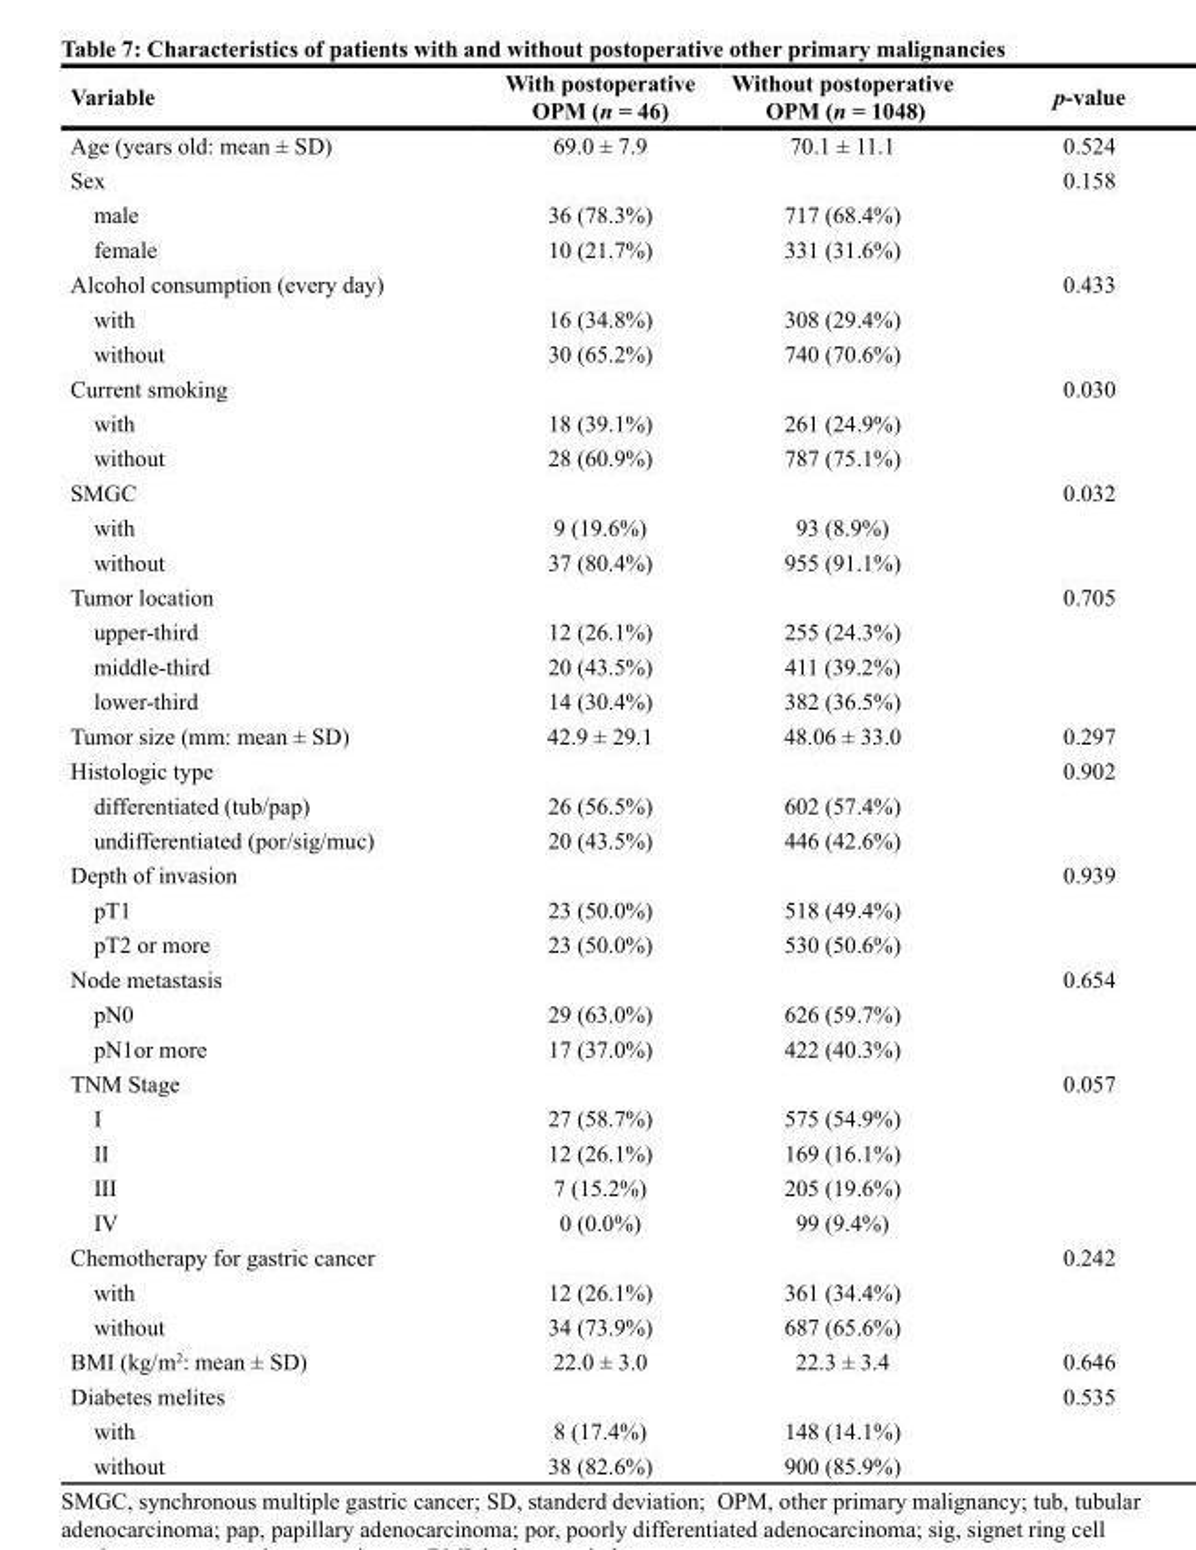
<table><thead><tr><td>Variable</td><td>With postoperative OPM (n = 46)</td><td>Without postoperative OPM (n = 1048)</td><td>p-value</td></tr></thead><tbody><tr><td>Age (years old: mean ± SD)</td><td>69.0 ± 7.9</td><td>70.1 ± 11.1</td><td>0.524</td></tr><tr><td>Sex</td><td></td><td></td><td>0.158</td></tr><tr><td>male</td><td>36 (78.3%)</td><td>717 (68.4%)</td><td></td></tr><tr><td>female</td><td>10 (21.7%)</td><td>331 (31.6%)</td><td></td></tr><tr><td>Alcohol consumption (every day)</td><td></td><td></td><td>0.433</td></tr><tr><td>with</td><td>16 (34.8%)</td><td>308 (29.4%)</td><td></td></tr><tr><td>without</td><td>30 (65.2%)</td><td>740 (70.6%)</td><td></td></tr><tr><td>Current smoking</td><td></td><td></td><td>0.030</td></tr><tr><td>with</td><td>18 (39.1%)</td><td>261 (24.9%)</td><td></td></tr><tr><td>without</td><td>28 (60.9%)</td><td>787 (75.1%)</td><td></td></tr><tr><td>SMGC</td><td></td><td></td><td>0.032</td></tr><tr><td>with</td><td>9 (19.6%)</td><td>93 (8.9%)</td><td></td></tr><tr><td>without</td><td>37 (80.4%)</td><td>955 (91.1%)</td><td></td></tr><tr><td>Tumor location</td><td></td><td></td><td>0.705</td></tr><tr><td>upper-third</td><td>12 (26.1%)</td><td>255 (24.3%)</td><td></td></tr><tr><td>middle-third</td><td>20 (43.5%)</td><td>411 (39.2%)</td><td></td></tr><tr><td>lower-third</td><td>14 (30.4%)</td><td>382 (36.5%)</td><td></td></tr><tr><td>Tumor size (mm: mean ± SD)</td><td>42.9 ± 29.1</td><td>48.06 ± 33.0</td><td>0.297</td></tr><tr><td>Histologic type</td><td></td><td></td><td>0.902</td></tr><tr><td>differentiated (tub/pap)</td><td>26 (56.5%)</td><td>602 (57.4%)</td><td></td></tr><tr><td>undifferentiated (por/sig/muc)</td><td>20 (43.5%)</td><td>446 (42.6%)</td><td></td></tr><tr><td>Depth of invasion</td><td></td><td></td><td>0.939</td></tr><tr><td>pT1</td><td>23 (50.0%)</td><td>518 (49.4%)</td><td></td></tr><tr><td>pT2 or more</td><td>23 (50.0%)</td><td>530 (50.6%)</td><td></td></tr><tr><td>Node metastasis</td><td></td><td></td><td>0.654</td></tr><tr><td>pN0</td><td>29 (63.0%)</td><td>626 (59.7%)</td><td></td></tr><tr><td>pN1or more</td><td>17 (37.0%)</td><td>422 (40.3%)</td><td></td></tr><tr><td>TNM Stage</td><td></td><td></td><td>0.057</td></tr><tr><td>I</td><td>27 (58.7%)</td><td>575 (54.9%)</td><td></td></tr><tr><td>II</td><td>12 (26.1%)</td><td>169 (16.1%)</td><td></td></tr><tr><td>III</td><td>7 (15.2%)</td><td>205 (19.6%)</td><td></td></tr><tr><td>IV</td><td>0 (0.0%)</td><td>99 (9.4%)</td><td></td></tr><tr><td>Chemotherapy for gastric cancer</td><td></td><td></td><td>0.242</td></tr><tr><td>with</td><td>12 (26.1%)</td><td>361 (34.4%)</td><td></td></tr><tr><td>without</td><td>34 (73.9%)</td><td>687 (65.6%)</td><td></td></tr><tr><td>BMI (kg/m<sup>2</sup>: mean ± SD)</td><td>22.0 ± 3.0</td><td>22.3 ± 3.4</td><td>0.646</td></tr><tr><td>Diabetes melites</td><td></td><td></td><td>0.535</td></tr><tr><td>with</td><td>8 (17.4%)</td><td>148 (14.1%)</td><td></td></tr><tr><td>without</td><td>38 (82.6%)</td><td>900 (85.9%)</td><td></td></tr></tbody></table>